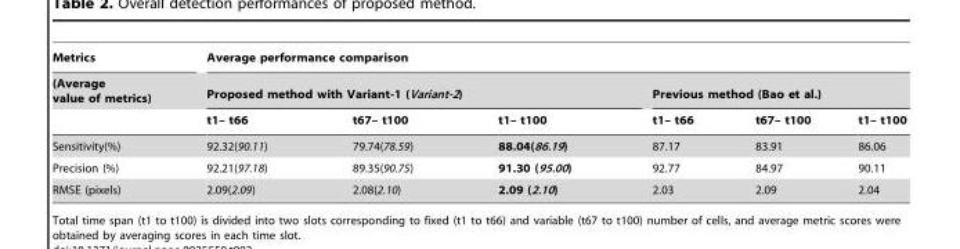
<table><thead><tr><td rowspan="3">Metrics (Average value of metrics)</td><td colspan="6">Average performance comparison</td></tr><tr><td colspan="3">Proposed method with Variant-1 (Variant-2)</td><td colspan="3">Previous method (Bao et al.)</td></tr><tr><td>t1– t66</td><td>t67– t100</td><td>t1– t100</td><td>t1– t66</td><td>t67– t100</td><td>t1– t100</td></tr></thead><tbody><tr><td>Sensitivity(%)</td><td>92.32(90.11)</td><td>79.74(78.59)</td><td>88.04(86.19)</td><td>87.17</td><td>83.91</td><td>86.06</td></tr><tr><td>Precision (%)</td><td>92.21(97.18)</td><td>89.35(90.75)</td><td>91.30 (95.00)</td><td>92.77</td><td>84.97</td><td>90.11</td></tr><tr><td>RMSE (pixels)</td><td>2.09(2.09)</td><td>2.08(2.10)</td><td>2.09 (2.10)</td><td>2.03</td><td>2.09</td><td>2.04</td></tr></tbody></table>